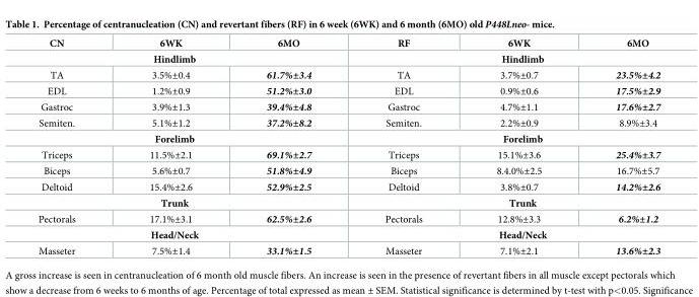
<table><thead><tr><td>CN</td><td>6WK</td><td>6MO</td><td>RF</td><td>6WK</td><td>6MO</td></tr></thead><tbody><tr><td colspan="3">Hindlimb</td><td colspan="3">Hindlimb</td></tr><tr><td>TA</td><td>3.5%±0.4</td><td>61.7%±3.4</td><td>TA</td><td>3.7%±0.7</td><td>23.5%±4.2</td></tr><tr><td>EDL</td><td>1.2%±0.9</td><td>51.2%±3.0</td><td>EDL</td><td>0.9%±0.6</td><td>17.5%±2.9</td></tr><tr><td>Gastroc</td><td>3.9%±1.3</td><td>39.4%±4.8</td><td>Gastroc</td><td>4.7%±1.1</td><td>17.6%±2.7</td></tr><tr><td>Semiten.</td><td>5.1%±1.2</td><td>37.2%±8.2</td><td>Semiten.</td><td>2.2%±0.9</td><td>8.9%±3.4</td></tr><tr><td colspan="3">Forelimb</td><td colspan="3">Forelimb</td></tr><tr><td>Triceps</td><td>11.5%±2.1</td><td>69.1%±2.7</td><td>Triceps</td><td>15.1%±3.6</td><td>25.4%±3.7</td></tr><tr><td>Biceps</td><td>5.6%±0.7</td><td>51.8%±4.9</td><td>Biceps</td><td>8.4.0%±2.5</td><td>16.7%±5.7</td></tr><tr><td>Deltoid</td><td>15.4%±2.6</td><td>52.9%±2.5</td><td>Deltoid</td><td>3.8%±0.7</td><td>14.2%±2.6</td></tr><tr><td colspan="3">Trunk</td><td colspan="3">Trunk</td></tr><tr><td>Pectorals</td><td>17.1%±3.1</td><td>62.5%±2.6</td><td>Pectorals</td><td>12.8%±3.3</td><td>6.2%±1.2</td></tr><tr><td colspan="3">Head/Neck</td><td colspan="3">Head/Neck</td></tr><tr><td>Masseter</td><td>7.5%±1.4</td><td>33.1%±1.5</td><td>Masseter</td><td>7.1%±2.1</td><td>13.6%±2.3</td></tr></tbody></table>